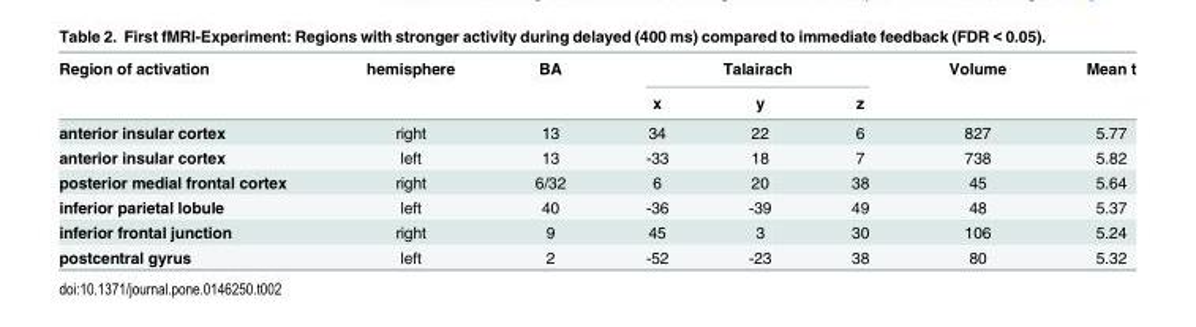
<table><thead><tr><td rowspan="2">Region of activation</td><td rowspan="2">hemisphere</td><td rowspan="2">BA</td><td colspan="3">Talairach</td><td rowspan="2">Volume</td><td rowspan="2">Mean t</td></tr><tr><td>x</td><td>y</td><td>z</td></tr></thead><tbody><tr><td>anterior insular cortex</td><td>right</td><td>13</td><td>34</td><td>22</td><td>6</td><td>827</td><td>5.77</td></tr><tr><td>anterior insular cortex</td><td>left</td><td>13</td><td>-33</td><td>18</td><td>7</td><td>738</td><td>5.82</td></tr><tr><td>posterior medial frontal cortex</td><td>right</td><td>6/32</td><td>6</td><td>20</td><td>38</td><td>45</td><td>5.64</td></tr><tr><td>inferior parietal lobule</td><td>left</td><td>40</td><td>-36</td><td>-39</td><td>49</td><td>48</td><td>5.37</td></tr><tr><td>inferior frontal junction</td><td>right</td><td>9</td><td>45</td><td>3</td><td>30</td><td>106</td><td>5.24</td></tr><tr><td>postcentral gyrus</td><td>left</td><td>2</td><td>-52</td><td>-23</td><td>38</td><td>80</td><td>5.32</td></tr></tbody></table>